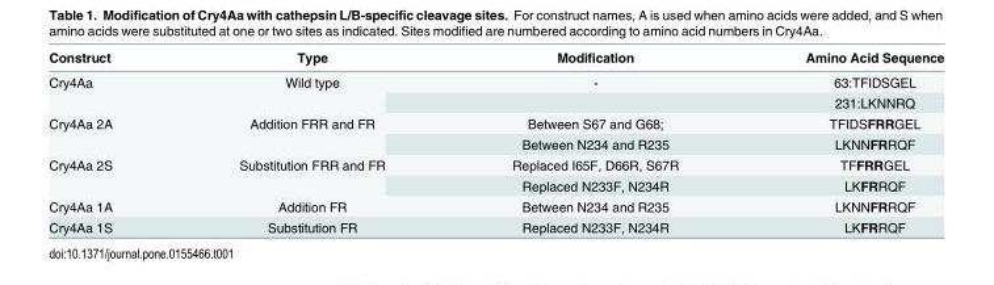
<table><thead><tr><td>Construct</td><td>Type</td><td>Modification</td><td>Amino Acid Sequence</td></tr></thead><tbody><tr><td rowspan="2">Cry4Aa</td><td rowspan="2">Wild type</td><td>-</td><td>63:TFIDSGEL</td></tr><tr><td></td><td>231:LKNNRQ</td></tr><tr><td rowspan="2">Cry4Aa 2A</td><td rowspan="2">Addition FRR and FR</td><td>Between S67 and G68;</td><td>TFIDSFRRGEL</td></tr><tr><td>Between N234 and R235</td><td>LKNNFRRQF</td></tr><tr><td rowspan="2">Cry4Aa 2S</td><td rowspan="2">Substitution FRR and FR</td><td>Replaced I65F, D66R, S67R</td><td>TFFRRGEL</td></tr><tr><td>Replaced N233F, N234R</td><td>LKFRRQF</td></tr><tr><td>Cry4Aa 1A</td><td>Addition FR</td><td>Between N234 and R235</td><td>LKNNFRRQF</td></tr><tr><td>Cry4Aa 1S</td><td>Substitution FR</td><td>Replaced N233F, N234R</td><td>LKFRRQF</td></tr></tbody></table>